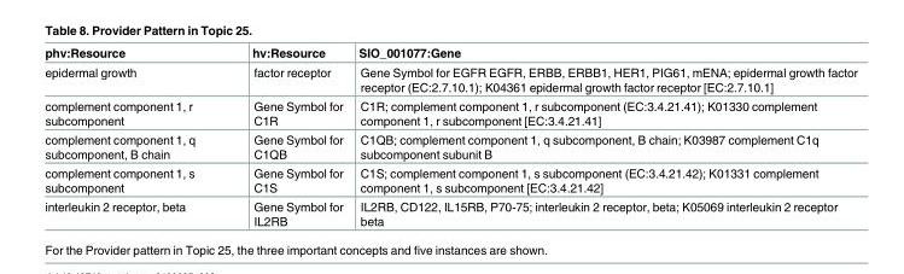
<table><thead><tr><td>phv:Resource</td><td>hv:Resource</td><td>SIO_001077:Gene</td></tr></thead><tbody><tr><td>epidermal growth</td><td>factor receptor</td><td>Gene Symbol for EGFR EGFR, ERBB, ERBB1, HER1, PIG61, mENA; epidermal growth factor receptor (EC:2.7.10.1); K04361 epidermal growth factor receptor [EC:2.7.10.1]</td></tr><tr><td>complement component 1, r subcomponent</td><td>Gene Symbol for C1R</td><td>C1R; complement component 1, r subcomponent (EC:3.4.21.41); K01330 complement component 1, r subcomponent [EC:3.4.21.41]</td></tr><tr><td>complement component 1, q subcomponent, B chain</td><td>Gene Symbol for C1QB</td><td>C1QB; complement component 1, q subcomponent, B chain; K03987 complement C1q subcomponent subunit B</td></tr><tr><td>complement component 1, s subcomponent</td><td>Gene Symbol for C1S</td><td>C1S; complement component 1, s subcomponent (EC:3.4.21.42); K01331 complement component 1, s subcomponent [EC:3.4.21.42]</td></tr><tr><td>interleukin 2 receptor, beta</td><td>Gene Symbol for IL2RB</td><td>IL2RB, CD122, IL15RB, P70-75; interleukin 2 receptor, beta; K05069 interleukin 2 receptor beta</td></tr></tbody></table>